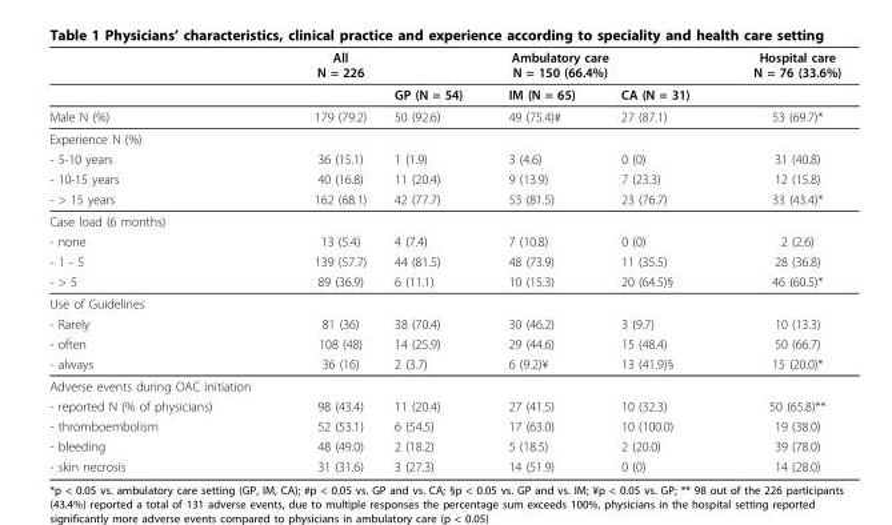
<table><thead><tr><td rowspan="2"></td><td rowspan="2">All N = 226</td><td colspan="3">Ambulatory care N = 150 (66.4%)</td><td rowspan="2">Hospital care N = 76 (33.6%)</td></tr><tr><td>GP (N = 54)</td><td>IM (N = 65)</td><td>CA (N = 31)</td></tr></thead><tbody><tr><td>Male N (%)</td><td>179 (79.2)</td><td>50 (92.6)</td><td>49 (75.4)#</td><td>27 (87.1)</td><td>53 (69.7)*</td></tr><tr><td colspan="6">Experience N (%)</td></tr><tr><td>- 5-10 years</td><td>36 (15.1)</td><td>1 (1.9)</td><td>3 (4.6)</td><td>0 (0)</td><td>31 (40.8)</td></tr><tr><td>- 10-15 years</td><td>40 (16.8)</td><td>11 (20.4)</td><td>9 (13.9)</td><td>7 (23.3)</td><td>12 (15.8)</td></tr><tr><td>- &gt; 15 years</td><td>162 (68.1)</td><td>42 (77.7)</td><td>53 (81.5)</td><td>23 (76.7)</td><td>33 (43.4)*</td></tr><tr><td colspan="6">Case load (6 months)</td></tr><tr><td>- none</td><td>13 (5.4)</td><td>4 (7.4)</td><td>7 (10.8)</td><td>0 (0)</td><td>2 (2.6)</td></tr><tr><td>- 1 - 5</td><td>139 (57.7)</td><td>44 (81.5)</td><td>48 (73.9)</td><td>11 (35.5)</td><td>28 (36.8)</td></tr><tr><td>- &gt; 5</td><td>89 (36.9)</td><td>6 (11.1)</td><td>10 (15.3)</td><td>20 (64.5)§</td><td>46 (60.5)*</td></tr><tr><td colspan="6">Use of Guidelines</td></tr><tr><td>- Rarely</td><td>81 (36)</td><td>38 (70.4)</td><td>30 (46.2)</td><td>3 (9.7)</td><td>10 (13.3)</td></tr><tr><td>- often</td><td>108 (48)</td><td>14 (25.9)</td><td>29 (44.6)</td><td>15 (48.4)</td><td>50 (66.7)</td></tr><tr><td>- always</td><td>36 (16)</td><td>2 (3.7)</td><td>6 (9.2)¥</td><td>13 (41.9)§</td><td>15 (20.0)*</td></tr><tr><td colspan="6">Adverse events during OAC initiation</td></tr><tr><td>- reported N (% of physicians)</td><td>98 (43.4)</td><td>11 (20.4)</td><td>27 (41.5)</td><td>10 (32.3)</td><td>50 (65.8)**</td></tr><tr><td>- thromboembolism</td><td>52 (53.1)</td><td>6 (54.5)</td><td>17 (63.0)</td><td>10 (100.0)</td><td>19 (38.0)</td></tr><tr><td>- bleeding</td><td>48 (49.0)</td><td>2 (18.2)</td><td>5 (18.5)</td><td>2 (20.0)</td><td>39 (78.0)</td></tr><tr><td>- skin necrosis</td><td>31 (31.6)</td><td>3 (27.3)</td><td>14 (51.9)</td><td>0 (0)</td><td>14 (28.0)</td></tr></tbody></table>